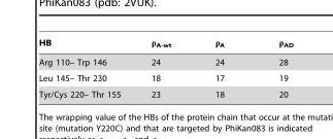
<table><thead><tr><td>HB</td><td>ρ<sub>A-wt</sub></td><td>ρ<sub>A</sub></td><td>ρ<sub>AD</sub></td></tr></thead><tbody><tr><td>Arg 110– Trp 146</td><td>24</td><td>24</td><td>28</td></tr><tr><td>Leu 145– Thr 230</td><td>18</td><td>17</td><td>19</td></tr><tr><td>Tyr/Cys 220– Thr 155</td><td>23</td><td>18</td><td>20</td></tr></tbody></table>